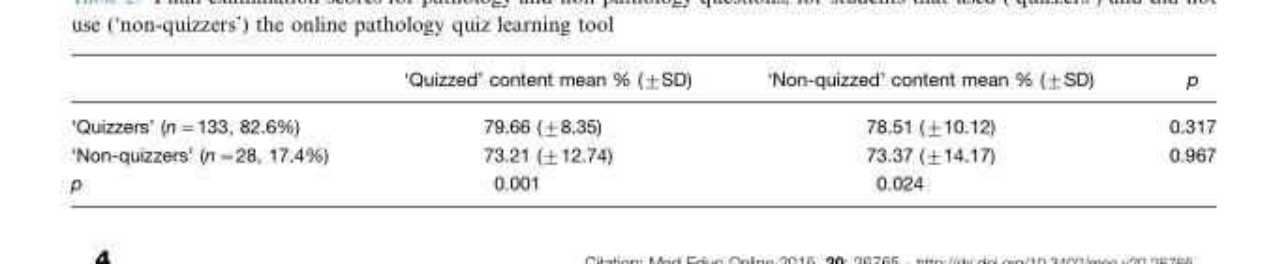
<table><thead><tr><td></td><td>‘Quizzed’ content mean % (±SD)</td><td>‘Non-quizzed’ content mean % (±SD)</td><td>p</td></tr></thead><tbody><tr><td>‘Quizzers’ (n=133, 82.6%)</td><td>79.66 (±8.35)</td><td>78.51 (±10.12)</td><td>0.317</td></tr><tr><td>‘Non-quizzers’ (n=28, 17.4%)</td><td>73.21 (±12.74)</td><td>73.37 (±14.17)</td><td>0.967</td></tr><tr><td>p</td><td>0.001</td><td>0.024</td><td></td></tr></tbody></table>